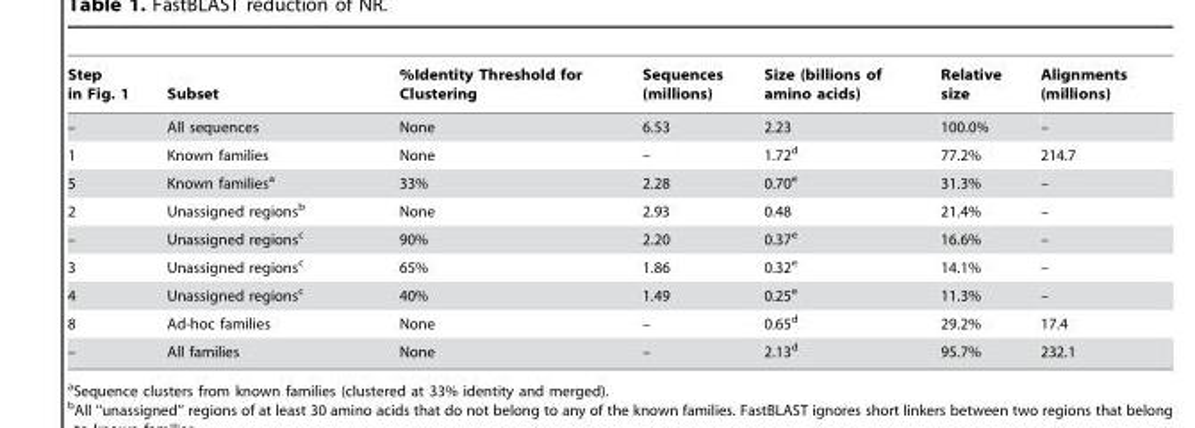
<table><thead><tr><td>Step in Fig. 1</td><td>Subset</td><td>%Identity Threshold for Clustering</td><td>Sequences (millions)</td><td>Size (billions of amino acids)</td><td>Relative size</td><td>Alignments (millions)</td></tr></thead><tbody><tr><td>–</td><td>All sequences</td><td>None</td><td>6.53</td><td>2.23</td><td>100.0%</td><td>–</td></tr><tr><td>1</td><td>Known families</td><td>None</td><td>–</td><td>1.72<sup>d</sup></td><td>77.2%</td><td>214.7</td></tr><tr><td>5</td><td>Known families<sup>a</sup></td><td>33%</td><td>2.28</td><td>0.70<sup>e</sup></td><td>31.3%</td><td>–</td></tr><tr><td>2</td><td>Unassigned regions<sup>b</sup></td><td>None</td><td>2.93</td><td>0.48</td><td>21.4%</td><td>–</td></tr><tr><td>–</td><td>Unassigned regions<sup>c</sup></td><td>90%</td><td>2.20</td><td>0.37<sup>e</sup></td><td>16.6%</td><td>–</td></tr><tr><td>3</td><td>Unassigned regions<sup>c</sup></td><td>65%</td><td>1.86</td><td>0.32<sup>e</sup></td><td>14.1%</td><td>–</td></tr><tr><td>4</td><td>Unassigned regions<sup>c</sup></td><td>40%</td><td>1.49</td><td>0.25<sup>e</sup></td><td>11.3%</td><td>–</td></tr><tr><td>8</td><td>Ad-hoc families</td><td>None</td><td>–</td><td>0.65<sup>d</sup></td><td>29.2%</td><td>17.4</td></tr><tr><td>–</td><td>All families</td><td>None</td><td>–</td><td>2.13<sup>d</sup></td><td>95.7%</td><td>232.1</td></tr></tbody></table>